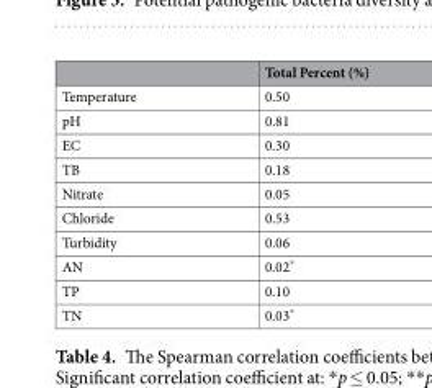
<table><thead><tr><td></td><td>Total Percent (%)</td></tr></thead><tbody><tr><td>Temperature</td><td>0.50</td></tr><tr><td>pH</td><td>0.81</td></tr><tr><td>EC</td><td>0.30</td></tr><tr><td>TB</td><td>0.18</td></tr><tr><td>Nitrate</td><td>0.05</td></tr><tr><td>Chloride</td><td>0.53</td></tr><tr><td>Turbidity</td><td>0.06</td></tr><tr><td>AN</td><td>0.02*</td></tr><tr><td>TP</td><td>0.10</td></tr><tr><td>TN</td><td>0.03*</td></tr></tbody></table>